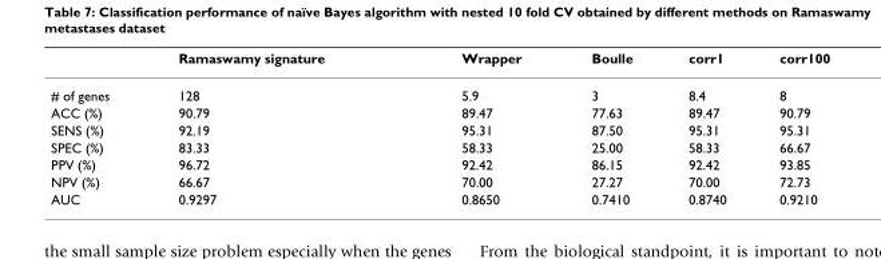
<table><thead><tr><td></td><td>Ramaswamy signature</td><td>Wrapper</td><td>Boulle</td><td>corr1</td><td>corr100</td></tr></thead><tbody><tr><td># of genes</td><td>128</td><td>5.9</td><td>3</td><td>8.4</td><td>8</td></tr><tr><td>ACC (%)</td><td>90.79</td><td>89.47</td><td>77.63</td><td>89.47</td><td>90.79</td></tr><tr><td>SENS (%)</td><td>92.19</td><td>95.31</td><td>87.50</td><td>95.31</td><td>95.31</td></tr><tr><td>SPEC (%)</td><td>83.33</td><td>58.33</td><td>25.00</td><td>58.33</td><td>66.67</td></tr><tr><td>PPV (%)</td><td>96.72</td><td>92.42</td><td>86.15</td><td>92.42</td><td>93.85</td></tr><tr><td>NPV (%)</td><td>66.67</td><td>70.00</td><td>27.27</td><td>70.00</td><td>72.73</td></tr><tr><td>AUC</td><td>0.9297</td><td>0.8650</td><td>0.7410</td><td>0.8740</td><td>0.9210</td></tr></tbody></table>